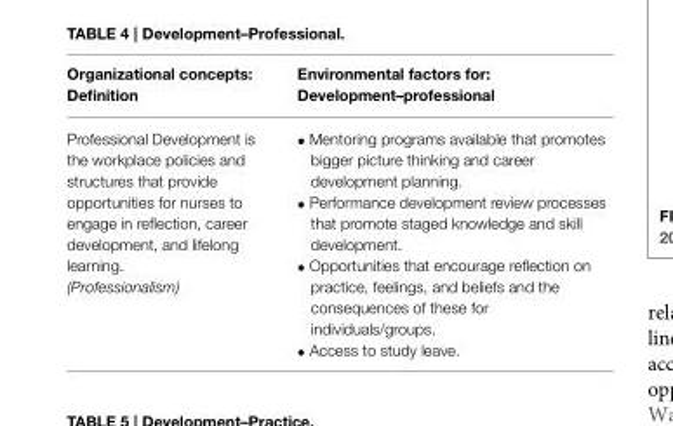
<table><thead><tr><td>Organizational concepts: Definition</td><td>Environmental factors for: Development–professional</td></tr></thead><tbody><tr><td>Professional Development is the workplace policies and structures that provide opportunities for nurses to engage in reflection, career development, and lifelong learning. (Professionalism)</td><td>• Mentoring programs available that promotes bigger picture thinking and career development planning. • Performance development review processes that promote staged knowledge and skill development. • Opportunities that encourage reflection on practice, feelings, and beliefs and the consequences of these for individuals/groups. • Access to study leave.</td></tr></tbody></table>